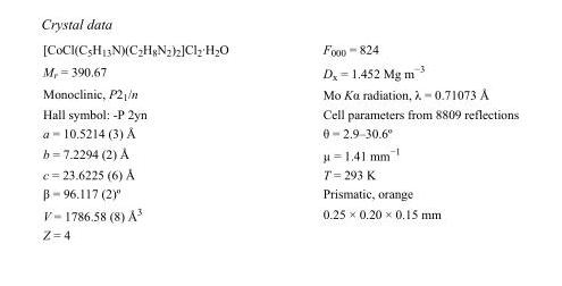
<table><tbody><tr><td>[CoCl(C<sub>5</sub>H<sub>13</sub>N)(C<sub>2</sub>H<sub>8</sub>N<sub>2</sub>)<sub>2</sub>]Cl<sub>2</sub>·H<sub>2</sub>O</td><td>F000 = 824</td></tr><tr><td>M<sub>r</sub> = 390.67</td><td>D<sub>x</sub> = 1.452 Mg m<sup>−3</sup></td></tr><tr><td>Monoclinic, P2<sub>1</sub>/n</td><td>Mo Kα radiation, λ = 0.71073 Å</td></tr><tr><td>Hall symbol: -P 2yn</td><td>Cell parameters from 8809 reflections</td></tr><tr><td>a = 10.5214 (3) Å</td><td>θ = 2.9–30.6º</td></tr><tr><td>b = 7.2294 (2) Å</td><td>µ = 1.41 mm<sup>−1</sup></td></tr><tr><td>c = 23.6225 (6) Å</td><td>T = 293 K</td></tr><tr><td>β = 96.117 (2)º</td><td>Prismatic, orange</td></tr><tr><td>V = 1786.58 (8) Å<sup>3</sup></td><td>0.25 × 0.20 × 0.15 mm</td></tr><tr><td>Z = 4</td><td></td></tr></tbody></table>